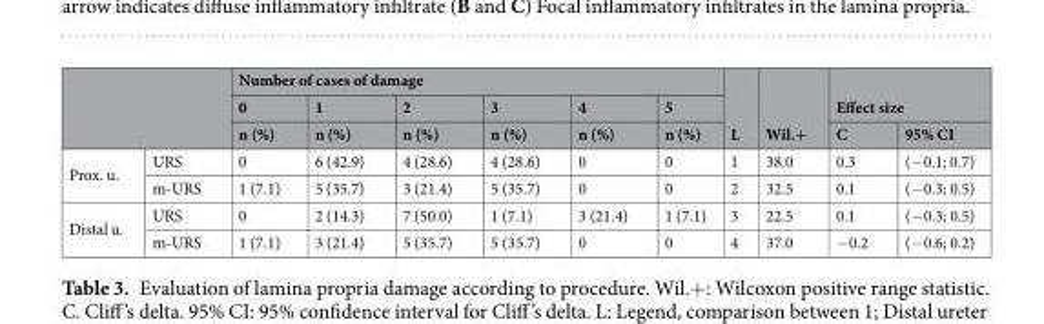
<table><thead><tr><td rowspan="3"></td><td rowspan="3"></td><td colspan="6">Number of cases of damage</td><td rowspan="3">L</td><td rowspan="3">Wil.+</td><td rowspan="2" colspan="2">Effect size</td></tr><tr><td rowspan="2">0 n (%)</td><td rowspan="2">1 n (%)</td><td rowspan="2">2 n (%)</td><td rowspan="2">3 n (%)</td><td rowspan="2">4 n (%)</td><td rowspan="2">5 n (%)</td></tr><tr><td>C</td><td>95% CI</td></tr></thead><tbody><tr><td rowspan="2">Prox. u.</td><td>URS</td><td>0</td><td>6 (42.9)</td><td>4 (28.6)</td><td>4 (28.6)</td><td>0</td><td>0</td><td>1</td><td>38.0</td><td>0.3</td><td>(−0.1; 0.7)</td></tr><tr><td>m-URS</td><td>1 (7.1)</td><td>5 (35.7)</td><td>3 (21.4)</td><td>5 (35.7)</td><td>0</td><td>0</td><td>2</td><td>32.5</td><td>0.1</td><td>(−0.3; 0.5)</td></tr><tr><td rowspan="2">Distal u.</td><td>URS</td><td>0</td><td>2 (14.3)</td><td>7 (50.0)</td><td>1 (7.1)</td><td>3 (21.4)</td><td>1 (7.1)</td><td>3</td><td>22.5</td><td>0.1</td><td>(−0.3; 0.5)</td></tr><tr><td>m-URS</td><td>1 (7.1)</td><td>3 (21.4)</td><td>5 (35.7)</td><td>5 (35.7)</td><td>0</td><td>0</td><td>4</td><td>37.0</td><td>−0.2</td><td>(−0.6; 0.2)</td></tr></tbody></table>